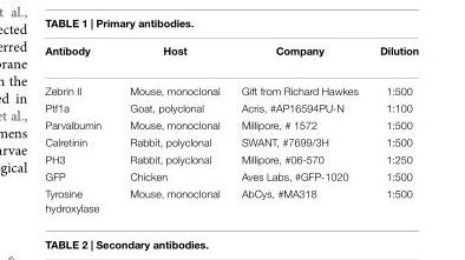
<table><thead><tr><td>Antibody</td><td>Host</td><td>Company</td><td>Dilution</td></tr></thead><tbody><tr><td>Zebrin II</td><td>Mouse, monoclonal</td><td>Gift from Richard Hawkes</td><td>1:500</td></tr><tr><td>Ptf1a</td><td>Goat, polyclonal</td><td>Acris, #AP16594PU-N</td><td>1:100</td></tr><tr><td>Parvalbumin</td><td>Mouse, monoclonal</td><td>Millipore, # 1572</td><td>1:500</td></tr><tr><td>Calretinin</td><td>Rabbit, polyclonal</td><td>SWANT, #7699/3H</td><td>1:500</td></tr><tr><td>PH3</td><td>Rabbit, polyclonal</td><td>Millipore, #06-570</td><td>1:250</td></tr><tr><td>GFP</td><td>Chicken</td><td>Aves Labs, #GFP-1020</td><td>1:500</td></tr><tr><td>Tyrosine hydroxylase</td><td>Mouse, monoclonal</td><td>AbCys, #MA318</td><td>1:500</td></tr></tbody></table>